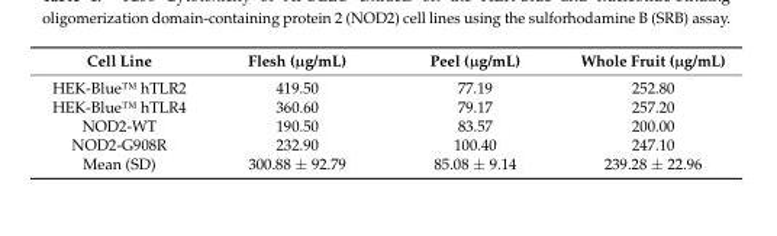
<table><thead><tr><td>Cell Line</td><td>Flesh (µg/mL)</td><td>Peel (µg/mL)</td><td>Whole Fruit (µg/mL)</td></tr></thead><tbody><tr><td>HEK-Blue™ hTLR2</td><td>419.50</td><td>77.19</td><td>252.80</td></tr><tr><td>HEK-Blue™ hTLR4</td><td>360.60</td><td>79.17</td><td>257.20</td></tr><tr><td>NOD2-WT</td><td>190.50</td><td>83.57</td><td>200.00</td></tr><tr><td>NOD2-G908R</td><td>232.90</td><td>100.40</td><td>247.10</td></tr><tr><td>Mean (SD)</td><td>300.88 ± 92.79</td><td>85.08 ± 9.14</td><td>239.28 ± 22.96</td></tr></tbody></table>